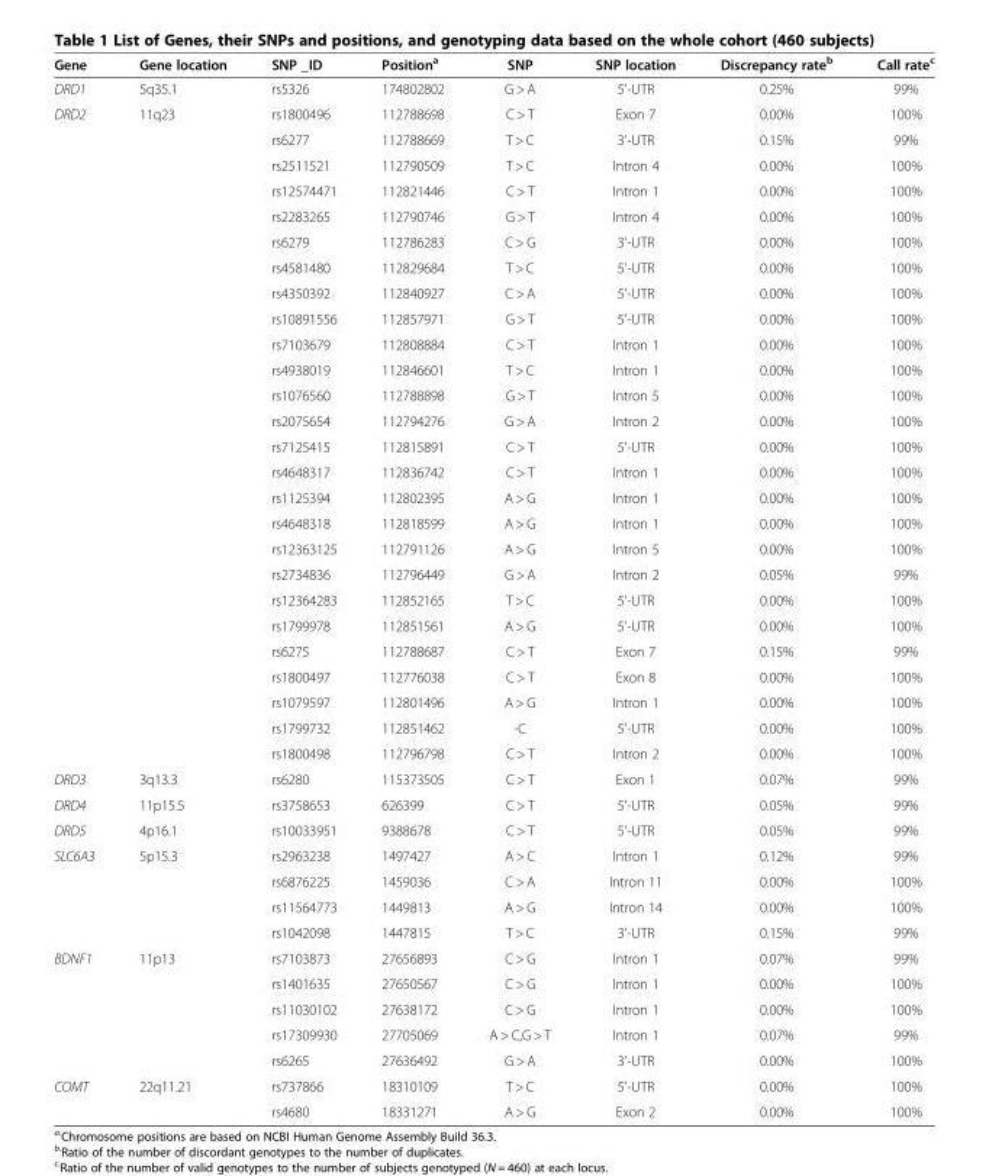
<table><thead><tr><td>Gene</td><td>Gene location</td><td>SNP _ID</td><td>Position<sup>a</sup></td><td>SNP</td><td>SNP location</td><td>Discrepancy rate<sup>b</sup></td><td>Call rate<sup>c</sup></td></tr></thead><tbody><tr><td>DRD1</td><td>5q35.1</td><td>rs5326</td><td>174802802</td><td>G &gt; A</td><td>5&#x27;-UTR</td><td>0.25%</td><td>99%</td></tr><tr><td rowspan="26">DRD2</td><td rowspan="24">11q23</td><td>rs1800496</td><td>112788698</td><td>C &gt; T</td><td>Exon 7</td><td>0.00%</td><td>100%</td></tr><tr><td>rs6277</td><td>112788669</td><td>T &gt; C</td><td>3&#x27;-UTR</td><td>0.15%</td><td>99%</td></tr><tr><td>rs2511521</td><td>112790509</td><td>T &gt; C</td><td>Intron 4</td><td>0.00%</td><td>100%</td></tr><tr><td>rs12574471</td><td>112821446</td><td>C &gt; T</td><td>Intron 1</td><td>0.00%</td><td>100%</td></tr><tr><td>rs2283265</td><td>112790746</td><td>G &gt; T</td><td>Intron 4</td><td>0.00%</td><td>100%</td></tr><tr><td>rs6279</td><td>112786283</td><td>C &gt; G</td><td>3&#x27;-UTR</td><td>0.00%</td><td>100%</td></tr><tr><td>rs4581480</td><td>112829684</td><td>T &gt; C</td><td>5&#x27;-UTR</td><td>0.00%</td><td>100%</td></tr><tr><td>rs4350392</td><td>112840927</td><td>C &gt; A</td><td>5&#x27;-UTR</td><td>0.00%</td><td>100%</td></tr><tr><td>rs10891556</td><td>112857971</td><td>G &gt; T</td><td>5&#x27;-UTR</td><td>0.00%</td><td>100%</td></tr><tr><td>rs7103679</td><td>112808884</td><td>C &gt; T</td><td>Intron 1</td><td>0.00%</td><td>100%</td></tr><tr><td>rs4938019</td><td>112846601</td><td>T &gt; C</td><td>Intron 1</td><td>0.00%</td><td>100%</td></tr><tr><td>rs1076560</td><td>112788898</td><td>G &gt; T</td><td>Intron 5</td><td>0.00%</td><td>100%</td></tr><tr><td>rs2075654</td><td>112794276</td><td>G &gt; A</td><td>Intron 2</td><td>0.00%</td><td>100%</td></tr><tr><td>rs7125415</td><td>112815891</td><td>C &gt; T</td><td>5&#x27;-UTR</td><td>0.00%</td><td>100%</td></tr><tr><td>rs4648317</td><td>112836742</td><td>C &gt; T</td><td>Intron 1</td><td>0.00%</td><td>100%</td></tr><tr><td>rs1125394</td><td>112802395</td><td>A &gt; G</td><td>Intron 1</td><td>0.00%</td><td>100%</td></tr><tr><td>rs4648318</td><td>112818599</td><td>A &gt; G</td><td>Intron 1</td><td>0.00%</td><td>100%</td></tr><tr><td>rs12363125</td><td>112791126</td><td>A &gt; G</td><td>Intron 5</td><td>0.00%</td><td>100%</td></tr><tr><td>rs2734836</td><td>112796449</td><td>G &gt; A</td><td>Intron 2</td><td>0.05%</td><td>99%</td></tr><tr><td>rs12364283</td><td>112852165</td><td>T &gt; C</td><td>5&#x27;-UTR</td><td>0.00%</td><td>100%</td></tr><tr><td>rs1799978</td><td>112851561</td><td>A &gt; G</td><td>5&#x27;-UTR</td><td>0.00%</td><td>100%</td></tr><tr><td>rs6275</td><td>112788687</td><td>C &gt; T</td><td>Exon 7</td><td>0.15%</td><td>99%</td></tr><tr><td>rs1800497</td><td>112776038</td><td>C &gt; T</td><td>Exon 8</td><td>0.00%</td><td>100%</td></tr><tr><td>rs1079597</td><td>112801496</td><td>A &gt; G</td><td>Intron 1</td><td>0.00%</td><td>100%</td></tr><tr><td></td><td>rs1799732</td><td>112851462</td><td>-C</td><td>5&#x27;-UTR</td><td>0.00%</td><td>100%</td></tr><tr><td></td><td>rs1800498</td><td>112796798</td><td>C &gt; T</td><td>Intron 2</td><td>0.00%</td><td>100%</td></tr><tr><td>DRD3</td><td>3q13.3</td><td>rs6280</td><td>115373505</td><td>C &gt; T</td><td>Exon 1</td><td>0.07%</td><td>99%</td></tr><tr><td>DRD4</td><td>11p15.5</td><td>rs3758653</td><td>626399</td><td>C &gt; T</td><td>5&#x27;-UTR</td><td>0.05%</td><td>99%</td></tr><tr><td>DRD5</td><td>4p16.1</td><td>rs10033951</td><td>9388678</td><td>C &gt; T</td><td>5&#x27;-UTR</td><td>0.05%</td><td>99%</td></tr><tr><td rowspan="4">SLC6A3</td><td rowspan="4">5p15.3</td><td>rs2963238</td><td>1497427</td><td>A &gt; C</td><td>Intron 1</td><td>0.12%</td><td>99%</td></tr><tr><td>rs6876225</td><td>1459036</td><td>C &gt; A</td><td>Intron 11</td><td>0.00%</td><td>100%</td></tr><tr><td>rs11564773</td><td>1449813</td><td>A &gt; G</td><td>Intron 14</td><td>0.00%</td><td>100%</td></tr><tr><td>rs1042098</td><td>1447815</td><td>T &gt; C</td><td>3&#x27;-UTR</td><td>0.15%</td><td>99%</td></tr><tr><td rowspan="5">BDNF1</td><td rowspan="5">11p13</td><td>rs7103873</td><td>27656893</td><td>C &gt; G</td><td>Intron 1</td><td>0.07%</td><td>99%</td></tr><tr><td>rs1401635</td><td>27650567</td><td>C &gt; G</td><td>Intron 1</td><td>0.00%</td><td>100%</td></tr><tr><td>rs11030102</td><td>27638172</td><td>C &gt; G</td><td>Intron 1</td><td>0.00%</td><td>100%</td></tr><tr><td>rs17309930</td><td>27705069</td><td>A &gt; C,G &gt; T</td><td>Intron 1</td><td>0.07%</td><td>99%</td></tr><tr><td>rs6265</td><td>27636492</td><td>G &gt; A</td><td>3&#x27;-UTR</td><td>0.00%</td><td>100%</td></tr><tr><td rowspan="2">COMT</td><td>22q11.21</td><td>rs737866</td><td>18310109</td><td>T &gt; C</td><td>5&#x27;-UTR</td><td>0.00%</td><td>100%</td></tr><tr><td></td><td>rs4680</td><td>18331271</td><td>A &gt; G</td><td>Exon 2</td><td>0.00%</td><td>100%</td></tr></tbody></table>